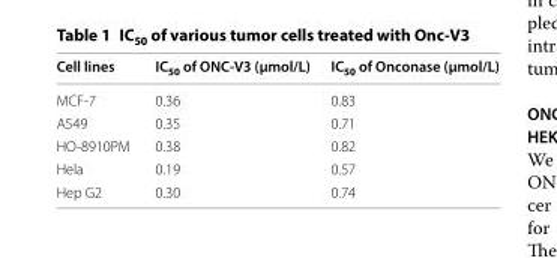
<table><thead><tr><td>Cell lines</td><td>IC<sub>50</sub> of ONC‑V3 (μmol/L)</td><td>IC<sub>50</sub> of Onconase (μmol/L)</td></tr></thead><tbody><tr><td>MCF-7</td><td>0.36</td><td>0.83</td></tr><tr><td>A549</td><td>0.35</td><td>0.71</td></tr><tr><td>HO-8910PM</td><td>0.38</td><td>0.82</td></tr><tr><td>Hela</td><td>0.19</td><td>0.57</td></tr><tr><td>Hep G2</td><td>0.30</td><td>0.74</td></tr></tbody></table>